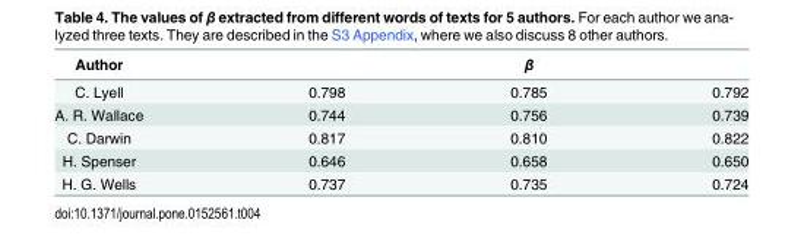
<table><thead><tr><td rowspan="2">Author C. Lyell</td><td colspan="3">β</td></tr><tr><td>0.798</td><td>0.785</td><td>0.792</td></tr></thead><tbody><tr><td>A. R. Wallace</td><td>0.744</td><td>0.756</td><td>0.739</td></tr><tr><td>C. Darwin</td><td>0.817</td><td>0.810</td><td>0.822</td></tr><tr><td>H. Spenser</td><td>0.646</td><td>0.658</td><td>0.650</td></tr><tr><td>H. G. Wells</td><td>0.737</td><td>0.735</td><td>0.724</td></tr></tbody></table>